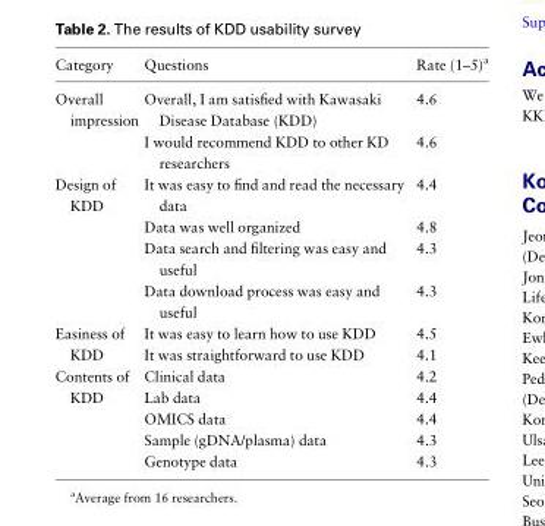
<table><thead><tr><td>Category</td><td>Questions</td><td>Rate (1–5)<sup>a</sup></td></tr></thead><tbody><tr><td rowspan="2">Overall impression</td><td>Overall, I am satisfied with Kawasaki Disease Database (KDD)</td><td>4.6</td></tr><tr><td>I would recommend KDD to other KD researchers</td><td>4.6</td></tr><tr><td rowspan="4">Design of KDD</td><td>It was easy to find and read the necessary data</td><td>4.4</td></tr><tr><td>Data was well organized</td><td>4.8</td></tr><tr><td>Data search and filtering was easy and useful</td><td>4.3</td></tr><tr><td>Data download process was easy and useful</td><td>4.3</td></tr><tr><td rowspan="2">Easiness of KDD</td><td>It was easy to learn how to use KDD</td><td>4.5</td></tr><tr><td>It was straightforward to use KDD</td><td>4.1</td></tr><tr><td rowspan="5">Contents of KDD</td><td>Clinical data</td><td>4.2</td></tr><tr><td>Lab data</td><td>4.4</td></tr><tr><td>OMICS data</td><td>4.4</td></tr><tr><td>Sample (gDNA/plasma) data</td><td>4.3</td></tr><tr><td>Genotype data</td><td>4.3</td></tr></tbody></table>